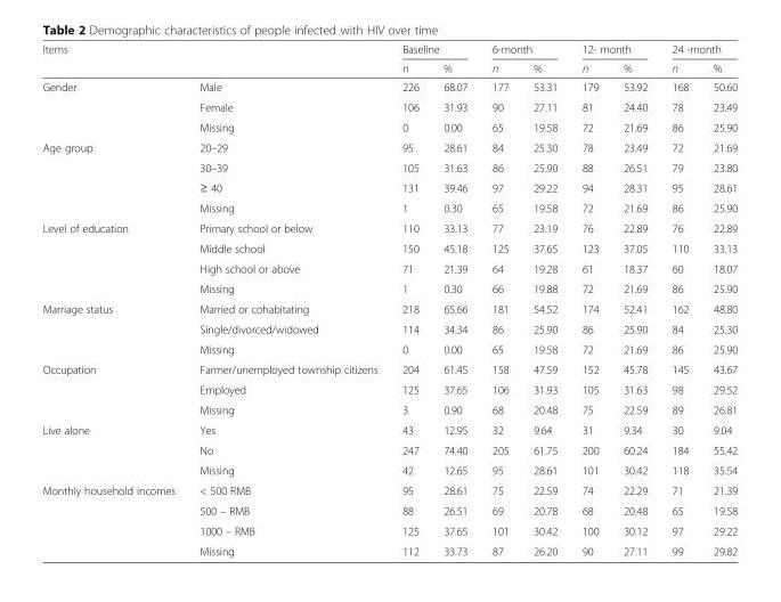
<table><thead><tr><td rowspan="2">Items</td><td rowspan="2"></td><td colspan="2">Baseline</td><td colspan="2">6-month</td><td colspan="2">12- month</td><td colspan="2">24 -month</td></tr><tr><td>n</td><td>%</td><td>n</td><td>%</td><td>n</td><td>%</td><td>n</td><td>%</td></tr></thead><tbody><tr><td rowspan="3">Gender</td><td>Male</td><td>226</td><td>68.07</td><td>177</td><td>53.31</td><td>179</td><td>53.92</td><td>168</td><td>50.60</td></tr><tr><td>Female</td><td>106</td><td>31.93</td><td>90</td><td>27.11</td><td>81</td><td>24.40</td><td>78</td><td>23.49</td></tr><tr><td>Missing</td><td>0</td><td>0.00</td><td>65</td><td>19.58</td><td>72</td><td>21.69</td><td>86</td><td>25.90</td></tr><tr><td rowspan="4">Age group</td><td>20–29</td><td>95</td><td>28.61</td><td>84</td><td>25.30</td><td>78</td><td>23.49</td><td>72</td><td>21.69</td></tr><tr><td>30–39</td><td>105</td><td>31.63</td><td>86</td><td>25.90</td><td>88</td><td>26.51</td><td>79</td><td>23.80</td></tr><tr><td>≥ 40</td><td>131</td><td>39.46</td><td>97</td><td>29.22</td><td>94</td><td>28.31</td><td>95</td><td>28.61</td></tr><tr><td>Missing</td><td>1</td><td>0.30</td><td>65</td><td>19.58</td><td>72</td><td>21.69</td><td>86</td><td>25.90</td></tr><tr><td rowspan="4">Level of education</td><td>Primary school or below</td><td>110</td><td>33.13</td><td>77</td><td>23.19</td><td>76</td><td>22.89</td><td>76</td><td>22.89</td></tr><tr><td>Middle school</td><td>150</td><td>45.18</td><td>125</td><td>37.65</td><td>123</td><td>37.05</td><td>110</td><td>33.13</td></tr><tr><td>High school or above</td><td>71</td><td>21.39</td><td>64</td><td>19.28</td><td>61</td><td>18.37</td><td>60</td><td>18.07</td></tr><tr><td>Missing</td><td>1</td><td>0.30</td><td>66</td><td>19.88</td><td>72</td><td>21.69</td><td>86</td><td>25.90</td></tr><tr><td rowspan="3">Marriage status</td><td>Married or cohabitating</td><td>218</td><td>65.66</td><td>181</td><td>54.52</td><td>174</td><td>52.41</td><td>162</td><td>48.80</td></tr><tr><td>Single/divorced/widowed</td><td>114</td><td>34.34</td><td>86</td><td>25.90</td><td>86</td><td>25.90</td><td>84</td><td>25.30</td></tr><tr><td>Missing</td><td>0</td><td>0.00</td><td>65</td><td>19.58</td><td>72</td><td>21.69</td><td>86</td><td>25.90</td></tr><tr><td rowspan="3">Occupation</td><td>Farmer/unemployed township citizens</td><td>204</td><td>61.45</td><td>158</td><td>47.59</td><td>152</td><td>45.78</td><td>145</td><td>43.67</td></tr><tr><td>Employed</td><td>125</td><td>37.65</td><td>106</td><td>31.93</td><td>105</td><td>31.63</td><td>98</td><td>29.52</td></tr><tr><td>Missing</td><td>3</td><td>0.90</td><td>68</td><td>20.48</td><td>75</td><td>22.59</td><td>89</td><td>26.81</td></tr><tr><td rowspan="3">Live alone</td><td>Yes</td><td>43</td><td>12.95</td><td>32</td><td>9.64</td><td>31</td><td>9.34</td><td>30</td><td>9.04</td></tr><tr><td>No</td><td>247</td><td>74.40</td><td>205</td><td>61.75</td><td>200</td><td>60.24</td><td>184</td><td>55.42</td></tr><tr><td>Missing</td><td>42</td><td>12.65</td><td>95</td><td>28.61</td><td>101</td><td>30.42</td><td>118</td><td>35.54</td></tr><tr><td rowspan="4">Monthly household incomes</td><td>&lt; 500 RMB</td><td>95</td><td>28.61</td><td>75</td><td>22.59</td><td>74</td><td>22.29</td><td>71</td><td>21.39</td></tr><tr><td>500 – RMB</td><td>88</td><td>26.51</td><td>69</td><td>20.78</td><td>68</td><td>20.48</td><td>65</td><td>19.58</td></tr><tr><td>1000 – RMB</td><td>125</td><td>37.65</td><td>101</td><td>30.42</td><td>100</td><td>30.12</td><td>97</td><td>29.22</td></tr><tr><td>Missing</td><td>112</td><td>33.73</td><td>87</td><td>26.20</td><td>90</td><td>27.11</td><td>99</td><td>29.82</td></tr></tbody></table>